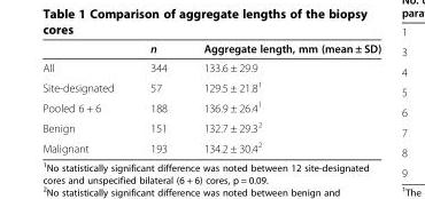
<table><thead><tr><td></td><td>n</td><td>Aggregate length, mm (mean ± SD)</td></tr></thead><tbody><tr><td>All</td><td>344</td><td>133.6 ± 29.9</td></tr><tr><td>Site-designated</td><td>57</td><td>129.5 ± 21.8<sup>1</sup></td></tr><tr><td>Pooled 6 + 6</td><td>188</td><td>136.9 ± 26.4<sup>1</sup></td></tr><tr><td>Benign</td><td>151</td><td>132.7 ± 29.3<sup>2</sup></td></tr><tr><td>Malignant</td><td>193</td><td>134.2 ± 30.4<sup>2</sup></td></tr></tbody></table>